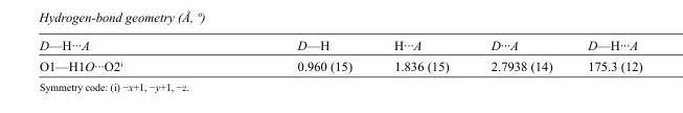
<table><tbody><tr><td>D—H···A</td><td>D—H</td><td>H···A</td><td>D···A</td><td>D—H···A</td></tr><tr><td>O1—H1O···O2<sup>i</sup></td><td>0.960 (15)</td><td>1.836 (15)</td><td>2.7938 (14)</td><td>175.3 (12)</td></tr></tbody></table>